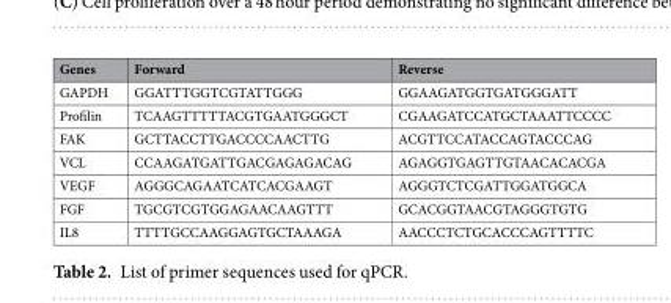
<table><thead><tr><td>Genes</td><td>Forward</td><td>Reverse</td></tr></thead><tbody><tr><td>GAPDH</td><td>GGATTTGGTCGTATTGGG</td><td>GGAAGATGGTGATGGGATT</td></tr><tr><td>Profilin</td><td>TCAAGTTTTTACGTGAATGGGCT</td><td>CGAAGATCCATGCTAAATTCCCC</td></tr><tr><td>FAK</td><td>GCTTACCTTGACCCCAACTTG</td><td>ACGTTCCATACCAGTACCCAG</td></tr><tr><td>VCL</td><td>CCAAGATGATTGACGAGAGACAG</td><td>AGAGGTGAGTTGTAACACACGA</td></tr><tr><td>VEGF</td><td>AGGGCAGAATCATCACGAAGT</td><td>AGGGTCTCGATTGGATGGCA</td></tr><tr><td>FGF</td><td>TGCGTCGTGGAGAACAAGTTT</td><td>GCACGGTAACGTAGGGTGTG</td></tr><tr><td>IL8</td><td>TTTTGCCAAGGAGTGCTAAAGA</td><td>AACCCTCTGCACCCAGTTTTC</td></tr></tbody></table>